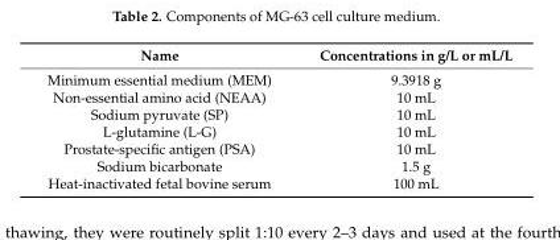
<table><thead><tr><td>Name</td><td>Concentrations in g/L or mL/L</td></tr></thead><tbody><tr><td>Minimum essential medium (MEM)</td><td>9.3918 g</td></tr><tr><td>Non-essential amino acid (NEAA)</td><td>10 mL</td></tr><tr><td>Sodium pyruvate (SP)</td><td>10 mL</td></tr><tr><td>L-glutamine (L-G)</td><td>10 mL</td></tr><tr><td>Prostate-specific antigen (PSA)</td><td>10 mL</td></tr><tr><td>Sodium bicarbonate</td><td>1.5 g</td></tr><tr><td>Heat-inactivated fetal bovine serum</td><td>100 mL</td></tr></tbody></table>